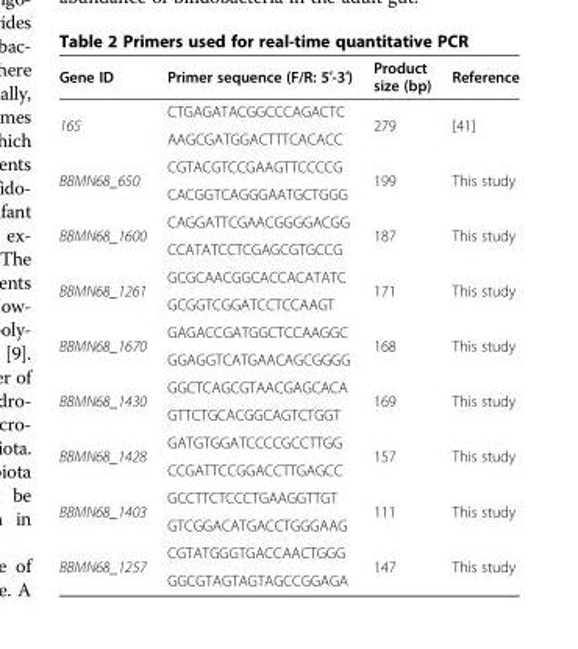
<table><thead><tr><td>Gene ID</td><td>Primer sequence (F/R: 5′-3′)</td><td>Product size (bp)</td><td>Reference</td></tr></thead><tbody><tr><td rowspan="2">16S</td><td>CTGAGATACGGCCCAGACTC</td><td rowspan="2">279</td><td rowspan="2">[41]</td></tr><tr><td>AAGCGATGGACTTTCACACC</td></tr><tr><td rowspan="2">BBMN68_650</td><td>CGTACGTCCGAAGTTCCCCG</td><td rowspan="2">199</td><td rowspan="2">This study</td></tr><tr><td>CACGGTCAGGGAATGCTGGG</td></tr><tr><td rowspan="2">BBMN68_1600</td><td>CAGGATTCGAACGGGGACGG</td><td rowspan="2">187</td><td rowspan="2">This study</td></tr><tr><td>CCATATCCTCGAGCGTGCCG</td></tr><tr><td rowspan="2">BBMN68_1261</td><td>GCGCAACGGCACCACATATC</td><td rowspan="2">171</td><td rowspan="2">This study</td></tr><tr><td>GCGGTCGGATCCTCCAAGT</td></tr><tr><td rowspan="2">BBMN68_1670</td><td>GAGACCGATGGCTCCAAGGC</td><td rowspan="2">168</td><td rowspan="2">This study</td></tr><tr><td>GGAGGTCATGAACAGCGGGG</td></tr><tr><td rowspan="2">BBMN68_1430</td><td>GGCTCAGCGTAACGAGCACA</td><td rowspan="2">169</td><td rowspan="2">This study</td></tr><tr><td>GTTCTGCACGGCAGTCTGGT</td></tr><tr><td rowspan="2">BBMN68_1428</td><td>GATGTGGATCCCCGCCTTGG</td><td rowspan="2">157</td><td rowspan="2">This study</td></tr><tr><td>CCGATTCCGGACCTTGAGCC</td></tr><tr><td rowspan="2">BBMN68_1403</td><td>GCCTTCTCCCTGAAGGTTGT</td><td rowspan="2">111</td><td rowspan="2">This study</td></tr><tr><td>GTCGGACATGACCTGGGAAG</td></tr><tr><td rowspan="2">BBMN68_1257</td><td>CGTATGGGTGACCAACTGGG</td><td rowspan="2">147</td><td rowspan="2">This study</td></tr><tr><td>GGCGTAGTAGTAGCCGGAGA</td></tr></tbody></table>